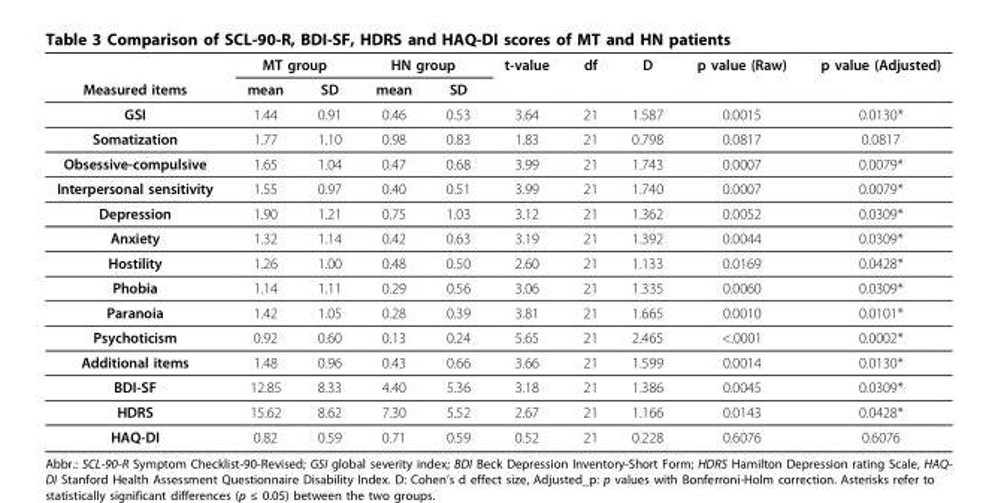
<table><thead><tr><td rowspan="2">Measured items</td><td colspan="2">MT group</td><td colspan="2">HN group</td><td rowspan="2">t-value</td><td rowspan="2">df</td><td rowspan="2">D</td><td rowspan="2">p value (Raw)</td><td rowspan="2">p value (Adjusted)</td></tr><tr><td>mean</td><td>SD</td><td>mean</td><td>SD</td></tr></thead><tbody><tr><td>GSI</td><td>1.44</td><td>0.91</td><td>0.46</td><td>0.53</td><td>3.64</td><td>21</td><td>1.587</td><td>0.0015</td><td>0.0130*</td></tr><tr><td>Somatization</td><td>1.77</td><td>1.10</td><td>0.98</td><td>0.83</td><td>1.83</td><td>21</td><td>0.798</td><td>0.0817</td><td>0.0817</td></tr><tr><td>Obsessive-compulsive</td><td>1.65</td><td>1.04</td><td>0.47</td><td>0.68</td><td>3.99</td><td>21</td><td>1.743</td><td>0.0007</td><td>0.0079*</td></tr><tr><td>Interpersonal sensitivity</td><td>1.55</td><td>0.97</td><td>0.40</td><td>0.51</td><td>3.99</td><td>21</td><td>1.740</td><td>0.0007</td><td>0.0079*</td></tr><tr><td>Depression</td><td>1.90</td><td>1.21</td><td>0.75</td><td>1.03</td><td>3.12</td><td>21</td><td>1.362</td><td>0.0052</td><td>0.0309*</td></tr><tr><td>Anxiety</td><td>1.32</td><td>1.14</td><td>0.42</td><td>0.63</td><td>3.19</td><td>21</td><td>1.392</td><td>0.0044</td><td>0.0309*</td></tr><tr><td>Hostility</td><td>1.26</td><td>1.00</td><td>0.48</td><td>0.50</td><td>2.60</td><td>21</td><td>1.133</td><td>0.0169</td><td>0.0428*</td></tr><tr><td>Phobia</td><td>1.14</td><td>1.11</td><td>0.29</td><td>0.56</td><td>3.06</td><td>21</td><td>1.335</td><td>0.0060</td><td>0.0309*</td></tr><tr><td>Paranoia</td><td>1.42</td><td>1.05</td><td>0.28</td><td>0.39</td><td>3.81</td><td>21</td><td>1.665</td><td>0.0010</td><td>0.0101*</td></tr><tr><td>Psychoticism</td><td>0.92</td><td>0.60</td><td>0.13</td><td>0.24</td><td>5.65</td><td>21</td><td>2.465</td><td>&lt;.0001</td><td>0.0002*</td></tr><tr><td>Additional items</td><td>1.48</td><td>0.96</td><td>0.43</td><td>0.66</td><td>3.66</td><td>21</td><td>1.599</td><td>0.0014</td><td>0.0130*</td></tr><tr><td>BDI-SF</td><td>12.85</td><td>8.33</td><td>4.40</td><td>5.36</td><td>3.18</td><td>21</td><td>1.386</td><td>0.0045</td><td>0.0309*</td></tr><tr><td>HDRS</td><td>15.62</td><td>8.62</td><td>7.30</td><td>5.52</td><td>2.67</td><td>21</td><td>1.166</td><td>0.0143</td><td>0.0428*</td></tr><tr><td>HAQ-DI</td><td>0.82</td><td>0.59</td><td>0.71</td><td>0.59</td><td>0.52</td><td>21</td><td>0.228</td><td>0.6076</td><td>0.6076</td></tr></tbody></table>